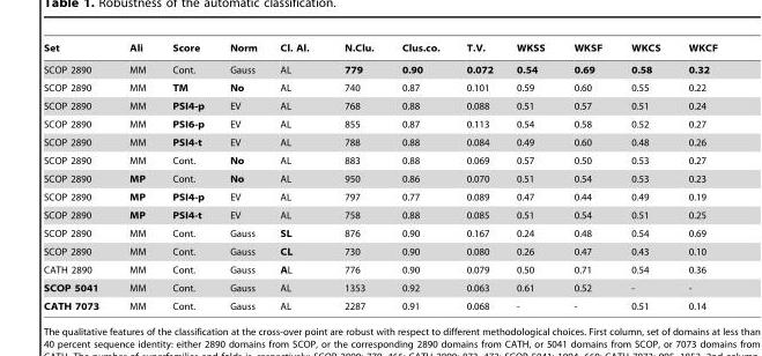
<table><thead><tr><td>Set</td><td>Ali</td><td>Score</td><td>Norm</td><td>Cl. Al.</td><td>N.Clu.</td><td>Clus.co.</td><td>T.V.</td><td>WKSS</td><td>WKSF</td><td>WKCS</td><td>WKCF</td></tr></thead><tbody><tr><td>SCOP 2890</td><td>MM</td><td>Cont.</td><td>Gauss</td><td>AL</td><td>779</td><td>0.90</td><td>0.072</td><td>0.54</td><td>0.69</td><td>0.58</td><td>0.32</td></tr><tr><td>SCOP 2890</td><td>MM</td><td>TM</td><td>No</td><td>AL</td><td>740</td><td>0.87</td><td>0.101</td><td>0.59</td><td>0.60</td><td>0.55</td><td>0.22</td></tr><tr><td>SCOP 2890</td><td>MM</td><td>PSI4-p</td><td>EV</td><td>AL</td><td>768</td><td>0.88</td><td>0.088</td><td>0.51</td><td>0.57</td><td>0.51</td><td>0.24</td></tr><tr><td>SCOP 2890</td><td>MM</td><td>PSI6-p</td><td>EV</td><td>AL</td><td>855</td><td>0.87</td><td>0.113</td><td>0.54</td><td>0.58</td><td>0.52</td><td>0.27</td></tr><tr><td>SCOP 2890</td><td>MM</td><td>PSI4-t</td><td>EV</td><td>AL</td><td>788</td><td>0.88</td><td>0.084</td><td>0.49</td><td>0.60</td><td>0.48</td><td>0.26</td></tr><tr><td>SCOP 2890</td><td>MM</td><td>Cont.</td><td>No</td><td>AL</td><td>883</td><td>0.88</td><td>0.069</td><td>0.57</td><td>0.50</td><td>0.53</td><td>0.27</td></tr><tr><td>SCOP 2890</td><td>MP</td><td>Cont.</td><td>No</td><td>AL</td><td>950</td><td>0.86</td><td>0.070</td><td>0.51</td><td>0.54</td><td>0.53</td><td>0.23</td></tr><tr><td>SCOP 2890</td><td>MP</td><td>PSI4-p</td><td>EV</td><td>AL</td><td>797</td><td>0.77</td><td>0.089</td><td>0.47</td><td>0.44</td><td>0.49</td><td>0.19</td></tr><tr><td>SCOP 2890</td><td>MP</td><td>PSI4-t</td><td>EV</td><td>AL</td><td>758</td><td>0.88</td><td>0.085</td><td>0.51</td><td>0.54</td><td>0.51</td><td>0.25</td></tr><tr><td>SCOP 2890</td><td>MM</td><td>Cont.</td><td>Gauss</td><td>SL</td><td>876</td><td>0.90</td><td>0.167</td><td>0.24</td><td>0.48</td><td>0.54</td><td>0.69</td></tr><tr><td>SCOP 2890</td><td>MM</td><td>Cont.</td><td>Gauss</td><td>CL</td><td>730</td><td>0.90</td><td>0.080</td><td>0.26</td><td>0.47</td><td>0.43</td><td>0.10</td></tr><tr><td>CATH 2890</td><td>MM</td><td>Cont.</td><td>Gauss</td><td>AL</td><td>776</td><td>0.90</td><td>0.079</td><td>0.50</td><td>0.71</td><td>0.54</td><td>0.36</td></tr><tr><td>SCOP 5041</td><td>MM</td><td>Cont.</td><td>Gauss</td><td>AL</td><td>1353</td><td>0.92</td><td>0.063</td><td>0.61</td><td>0.52</td><td>-</td><td>-</td></tr><tr><td>CATH 7073</td><td>MM</td><td>Cont.</td><td>Gauss</td><td>AL</td><td>2287</td><td>0.91</td><td>0.068</td><td>-</td><td>-</td><td>0.51</td><td>0.14</td></tr></tbody></table>